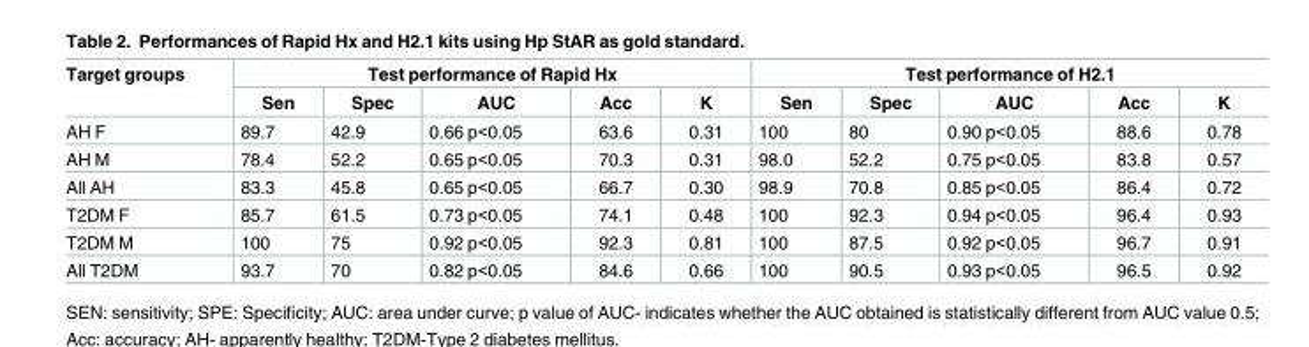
<table><thead><tr><td rowspan="2">Target groups</td><td colspan="5">Test performance of Rapid Hx</td><td colspan="5">Test performance of H2.1</td></tr><tr><td>Sen</td><td>Spec</td><td>AUC</td><td>Acc</td><td>K</td><td>Sen</td><td>Spec</td><td>AUC</td><td>Acc</td><td>K</td></tr></thead><tbody><tr><td>AH F</td><td>89.7</td><td>42.9</td><td>0.66 p&lt;0.05</td><td>63.6</td><td>0.31</td><td>100</td><td>80</td><td>0.90 p&lt;0.05</td><td>88.6</td><td>0.78</td></tr><tr><td>AH M</td><td>78.4</td><td>52.2</td><td>0.65 p&lt;0.05</td><td>70.3</td><td>0.31</td><td>98.0</td><td>52.2</td><td>0.75 p&lt;0.05</td><td>83.8</td><td>0.57</td></tr><tr><td>All AH</td><td>83.3</td><td>45.8</td><td>0.65 p&lt;0.05</td><td>66.7</td><td>0.30</td><td>98.9</td><td>70.8</td><td>0.85 p&lt;0.05</td><td>86.4</td><td>0.72</td></tr><tr><td>T2DM F</td><td>85.7</td><td>61.5</td><td>0.73 p&lt;0.05</td><td>74.1</td><td>0.48</td><td>100</td><td>92.3</td><td>0.94 p&lt;0.05</td><td>96.4</td><td>0.93</td></tr><tr><td>T2DM M</td><td>100</td><td>75</td><td>0.92 p&lt;0.05</td><td>92.3</td><td>0.81</td><td>100</td><td>87.5</td><td>0.92 p&lt;0.05</td><td>96.7</td><td>0.91</td></tr><tr><td>All T2DM</td><td>93.7</td><td>70</td><td>0.82 p&lt;0.05</td><td>84.6</td><td>0.66</td><td>100</td><td>90.5</td><td>0.93 p&lt;0.05</td><td>96.5</td><td>0.92</td></tr></tbody></table>